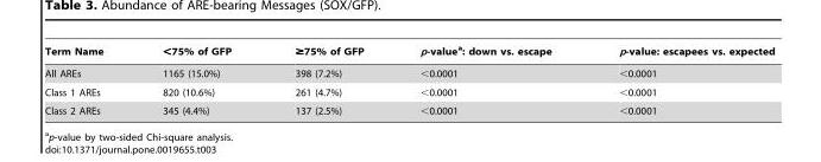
<table><thead><tr><td>Term Name</td><td>&lt;75% of GFP</td><td>≥75% of GFP</td><td>p-value<sup>a</sup>: down vs. escape</td><td>p-value: escapees vs. expected</td></tr></thead><tbody><tr><td>All AREs</td><td>1165 (15.0%)</td><td>398 (7.2%)</td><td>&lt;0.0001</td><td>&lt;0.0001</td></tr><tr><td>Class 1 AREs</td><td>820 (10.6%)</td><td>261 (4.7%)</td><td>&lt;0.0001</td><td>&lt;0.0001</td></tr><tr><td>Class 2 AREs</td><td>345 (4.4%)</td><td>137 (2.5%)</td><td>&lt;0.0001</td><td>&lt;0.0001</td></tr></tbody></table>